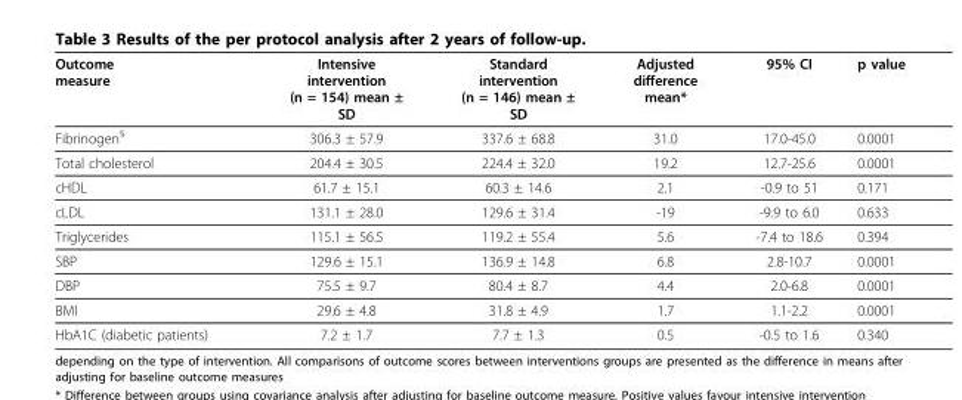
<table><thead><tr><td>Outcome measure</td><td>Intensive intervention (n = 154) mean ± SD</td><td>Standard intervention (n = 146) mean ± SD</td><td>Adjusted difference mean*</td><td>95% CI</td><td>p value</td></tr></thead><tbody><tr><td>Fibrinogen<sup>§</sup></td><td>306.3 ± 57.9</td><td>337.6 ± 68.8</td><td>31.0</td><td>17.0-45.0</td><td>0.0001</td></tr><tr><td>Total cholesterol</td><td>204.4 ± 30.5</td><td>224.4 ± 32.0</td><td>19.2</td><td>12.7-25.6</td><td>0.0001</td></tr><tr><td>cHDL</td><td>61.7 ± 15.1</td><td>60.3 ± 14.6</td><td>2.1</td><td>-0.9 to 51</td><td>0.171</td></tr><tr><td>cLDL</td><td>131.1 ± 28.0</td><td>129.6 ± 31.4</td><td>-19</td><td>-9.9 to 6.0</td><td>0.633</td></tr><tr><td>Triglycerides</td><td>115.1 ± 56.5</td><td>119.2 ± 55.4</td><td>5.6</td><td>-7.4 to 18.6</td><td>0.394</td></tr><tr><td>SBP</td><td>129.6 ± 15.1</td><td>136.9 ± 14.8</td><td>6.8</td><td>2.8-10.7</td><td>0.0001</td></tr><tr><td>DBP</td><td>75.5 ± 9.7</td><td>80.4 ± 8.7</td><td>4.4</td><td>2.0-6.8</td><td>0.0001</td></tr><tr><td>BMI</td><td>29.6 ± 4.8</td><td>31.8 ± 4.9</td><td>1.7</td><td>1.1-2.2</td><td>0.0001</td></tr><tr><td>HbA1C (diabetic patients)</td><td>7.2 ± 1.7</td><td>7.7 ± 1.3</td><td>0.5</td><td>-0.5 to 1.6</td><td>0.340</td></tr></tbody></table>